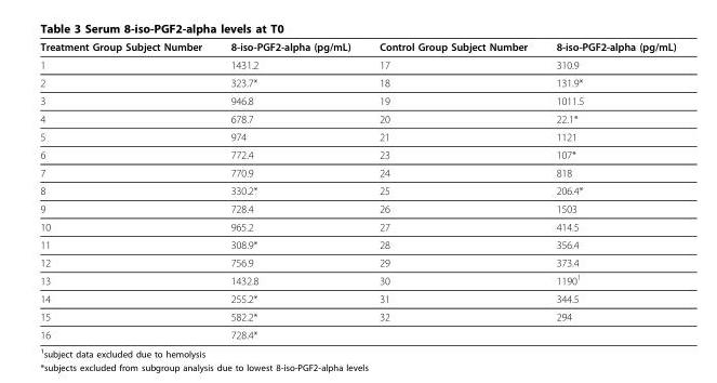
<table><thead><tr><td>Treatment Group Subject Number</td><td>8-iso-PGF2-alpha (pg/mL)</td><td>Control Group Subject Number</td><td>8-iso-PGF2-alpha (pg/mL)</td></tr></thead><tbody><tr><td>1</td><td>1431.2</td><td>17</td><td>310.9</td></tr><tr><td>2</td><td>323.7*</td><td>18</td><td>131.9*</td></tr><tr><td>3</td><td>946.8</td><td>19</td><td>1011.5</td></tr><tr><td>4</td><td>678.7</td><td>20</td><td>22.1*</td></tr><tr><td>5</td><td>974</td><td>21</td><td>1121</td></tr><tr><td>6</td><td>772.4</td><td>23</td><td>107*</td></tr><tr><td>7</td><td>770.9</td><td>24</td><td>818</td></tr><tr><td>8</td><td>330.2*</td><td>25</td><td>206.4*</td></tr><tr><td>9</td><td>728.4</td><td>26</td><td>1503</td></tr><tr><td>10</td><td>965.2</td><td>27</td><td>414.5</td></tr><tr><td>11</td><td>308.9*</td><td>28</td><td>356.4</td></tr><tr><td>12</td><td>756.9</td><td>29</td><td>373.4</td></tr><tr><td>13</td><td>1432.8</td><td>30</td><td>1190<sup>1</sup></td></tr><tr><td>14</td><td>255.2*</td><td>31</td><td>344.5</td></tr><tr><td>15</td><td>582.2*</td><td>32</td><td>294</td></tr><tr><td>16</td><td>728.4*</td><td></td><td></td></tr></tbody></table>